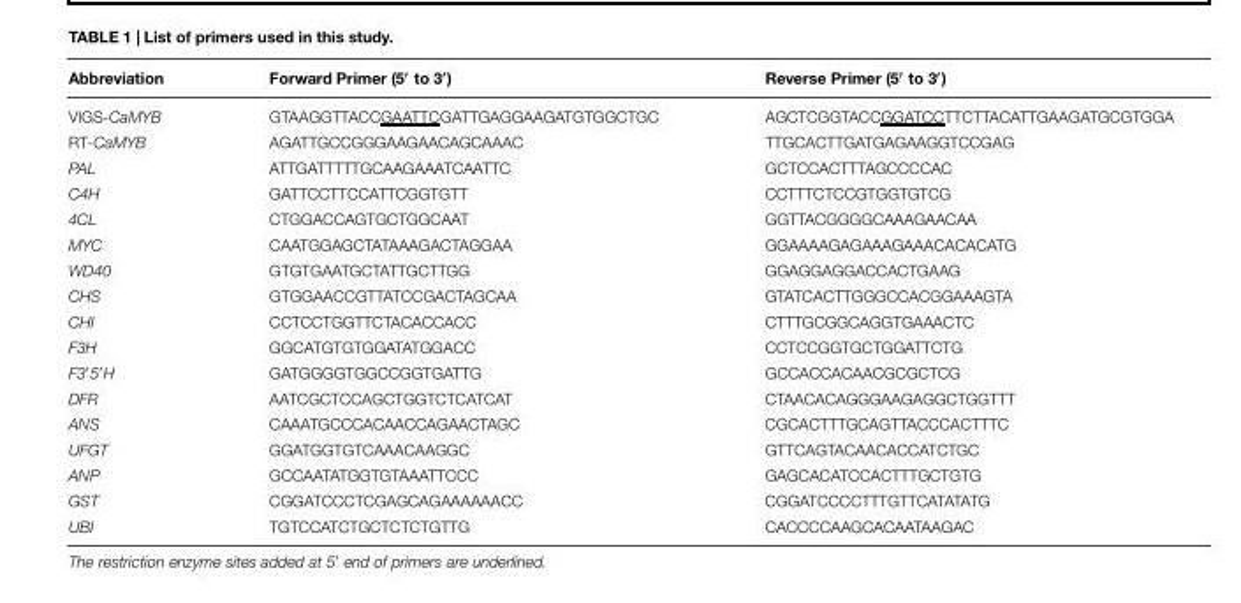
<table><thead><tr><td>Abbreviation</td><td>Forward Primer (5′ to 3′)</td><td>Reverse Primer (5′ to 3′)</td></tr></thead><tbody><tr><td>VIGS-CaMYB</td><td>GTAAGGTTACCGAATTCGATTGAGGAAGATGTGGCTGC</td><td>AGCTCGGTACCGGATCCTTCTTACATTGAAGATGCGTGGA</td></tr><tr><td>RT-CaMYB</td><td>AGATTGCCGGGAAGAACAGCAAAC</td><td>TTGCACTTGATGAGAAGGTCCGAG</td></tr><tr><td>PAL</td><td>ATTGATTTTTGCAAGAAATCAATTC</td><td>GCTCCACTTTAGCCCCAC</td></tr><tr><td>C4H</td><td>GATTCCTTCCATTCGGTGTT</td><td>CCTTTCTCCGTGGTGTCG</td></tr><tr><td>4CL</td><td>CTGGACCAGTGCTGGCAAT</td><td>GGTTACGGGGCAAAGAACAA</td></tr><tr><td>MYC</td><td>CAATGGAGCTATAAAGACTAGGAA</td><td>GGAAAAGAGAAAGAAACACACATG</td></tr><tr><td>WD40</td><td>GTGTGAATGCTATTGCTTGG</td><td>GGAGGAGGACCACTGAAG</td></tr><tr><td>CHS</td><td>GTGGAACCGTTATCCGACTAGCAA</td><td>GTATCACTTGGGCCACGGAAAGTA</td></tr><tr><td>CHI</td><td>CCTCCTGGTTCTACACCACC</td><td>CTTTGCGGCAGGTGAAACTC</td></tr><tr><td>F3H</td><td>GGCATGTGTGGATATGGACC</td><td>CCTCCGGTGCTGGATTCTG</td></tr><tr><td>F3′5′H</td><td>GATGGGGTGGCCGGTGATTG</td><td>GCCACCACAACGCGCTCG</td></tr><tr><td>DFR</td><td>AATCGCTCCAGCTGGTCTCATCAT</td><td>CTAACACAGGGAAGAGGCTGGTTT</td></tr><tr><td>ANS</td><td>CAAATGCCCACAACCAGAACTAGC</td><td>CGCACTTTGCAGTTACCCACTTTC</td></tr><tr><td>UFGT</td><td>GGATGGTGTCAAACAAGGC</td><td>GTTCAGTACAACACCATCTGC</td></tr><tr><td>ANP</td><td>GCCAATATGGTGTAAATTCCC</td><td>GAGCACATCCACTTTGCTGTG</td></tr><tr><td>GST</td><td>CGGATCCCTCGAGCAGAAAAAACC</td><td>CGGATCCCCTTTGTTCATATATG</td></tr><tr><td>UBI</td><td>TGTCCATCTGCTCTCTGTTG</td><td>CACCCCAAGCACAATAAGAC</td></tr></tbody></table>